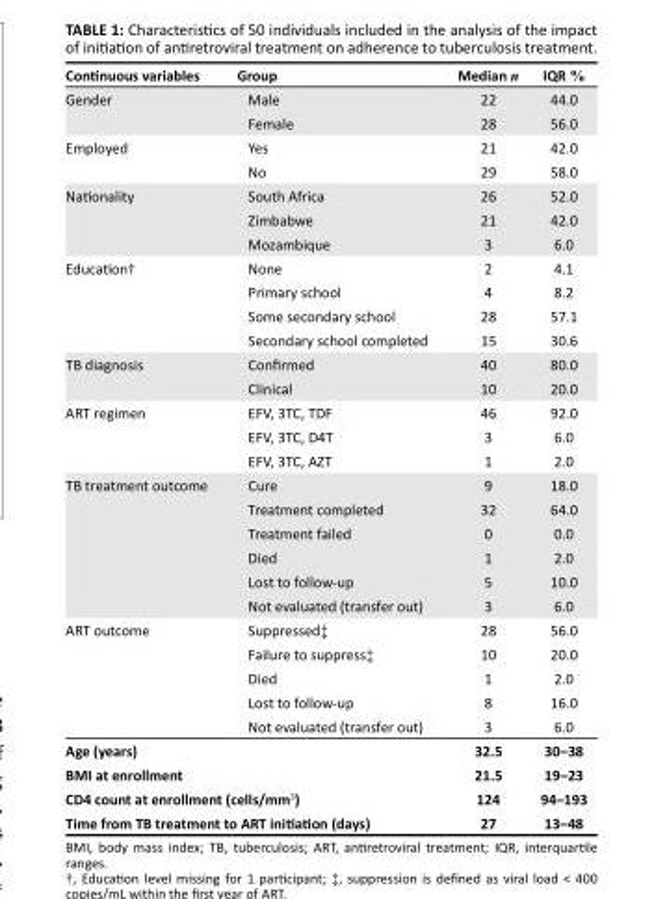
<table><thead><tr><td>Continuous variables</td><td>Group</td><td>Median n</td><td>IQR %</td></tr></thead><tbody><tr><td rowspan="2">Gender</td><td>Male</td><td>22</td><td>44.0</td></tr><tr><td>Female</td><td>28</td><td>56.0</td></tr><tr><td rowspan="2">Employed</td><td>Yes</td><td>21</td><td>42.0</td></tr><tr><td>No</td><td>29</td><td>58.0</td></tr><tr><td rowspan="3">Nationality</td><td>South Africa</td><td>26</td><td>52.0</td></tr><tr><td>Zimbabwe</td><td>21</td><td>42.0</td></tr><tr><td>Mozambique</td><td>3</td><td>6.0</td></tr><tr><td rowspan="4">Education†</td><td>None</td><td>2</td><td>4.1</td></tr><tr><td>Primary school</td><td>4</td><td>8.2</td></tr><tr><td>Some secondary school</td><td>28</td><td>57.1</td></tr><tr><td>Secondary school completed</td><td>15</td><td>30.6</td></tr><tr><td rowspan="2">TB diagnosis</td><td>Confirmed</td><td>40</td><td>80.0</td></tr><tr><td>Clinical</td><td>10</td><td>20.0</td></tr><tr><td rowspan="3">ART regimen</td><td>EFV, 3TC, TDF</td><td>46</td><td>92.0</td></tr><tr><td>EFV, 3TC, D4T</td><td>3</td><td>6.0</td></tr><tr><td>EFV, 3TC, AZT</td><td>1</td><td>2.0</td></tr><tr><td rowspan="6">TB treatment outcome</td><td>Cure</td><td>9</td><td>18.0</td></tr><tr><td>Treatment completed</td><td>32</td><td>64.0</td></tr><tr><td>Treatment failed</td><td>0</td><td>0.0</td></tr><tr><td>Died</td><td>1</td><td>2.0</td></tr><tr><td>Lost to follow-up</td><td>5</td><td>10.0</td></tr><tr><td>Not evaluated (transfer out)</td><td>3</td><td>6.0</td></tr><tr><td rowspan="5">ART outcome</td><td>Suppressed‡</td><td>28</td><td>56.0</td></tr><tr><td>Failure to suppress‡</td><td>10</td><td>20.0</td></tr><tr><td>Died</td><td>1</td><td>2.0</td></tr><tr><td>Lost to follow-up</td><td>8</td><td>16.0</td></tr><tr><td>Not evaluated (transfer out)</td><td>3</td><td>6.0</td></tr><tr><td colspan="2">Age (years)</td><td>32.5</td><td>30–38</td></tr><tr><td colspan="2">BMI at enrollment</td><td>21.5</td><td>19–23</td></tr><tr><td colspan="2">CD4 count at enrollment (cells/mm<sup>3</sup>)</td><td>124</td><td>94–193</td></tr><tr><td colspan="2">Time from TB treatment to ART initiation (days)</td><td>27</td><td>13–48</td></tr></tbody></table>